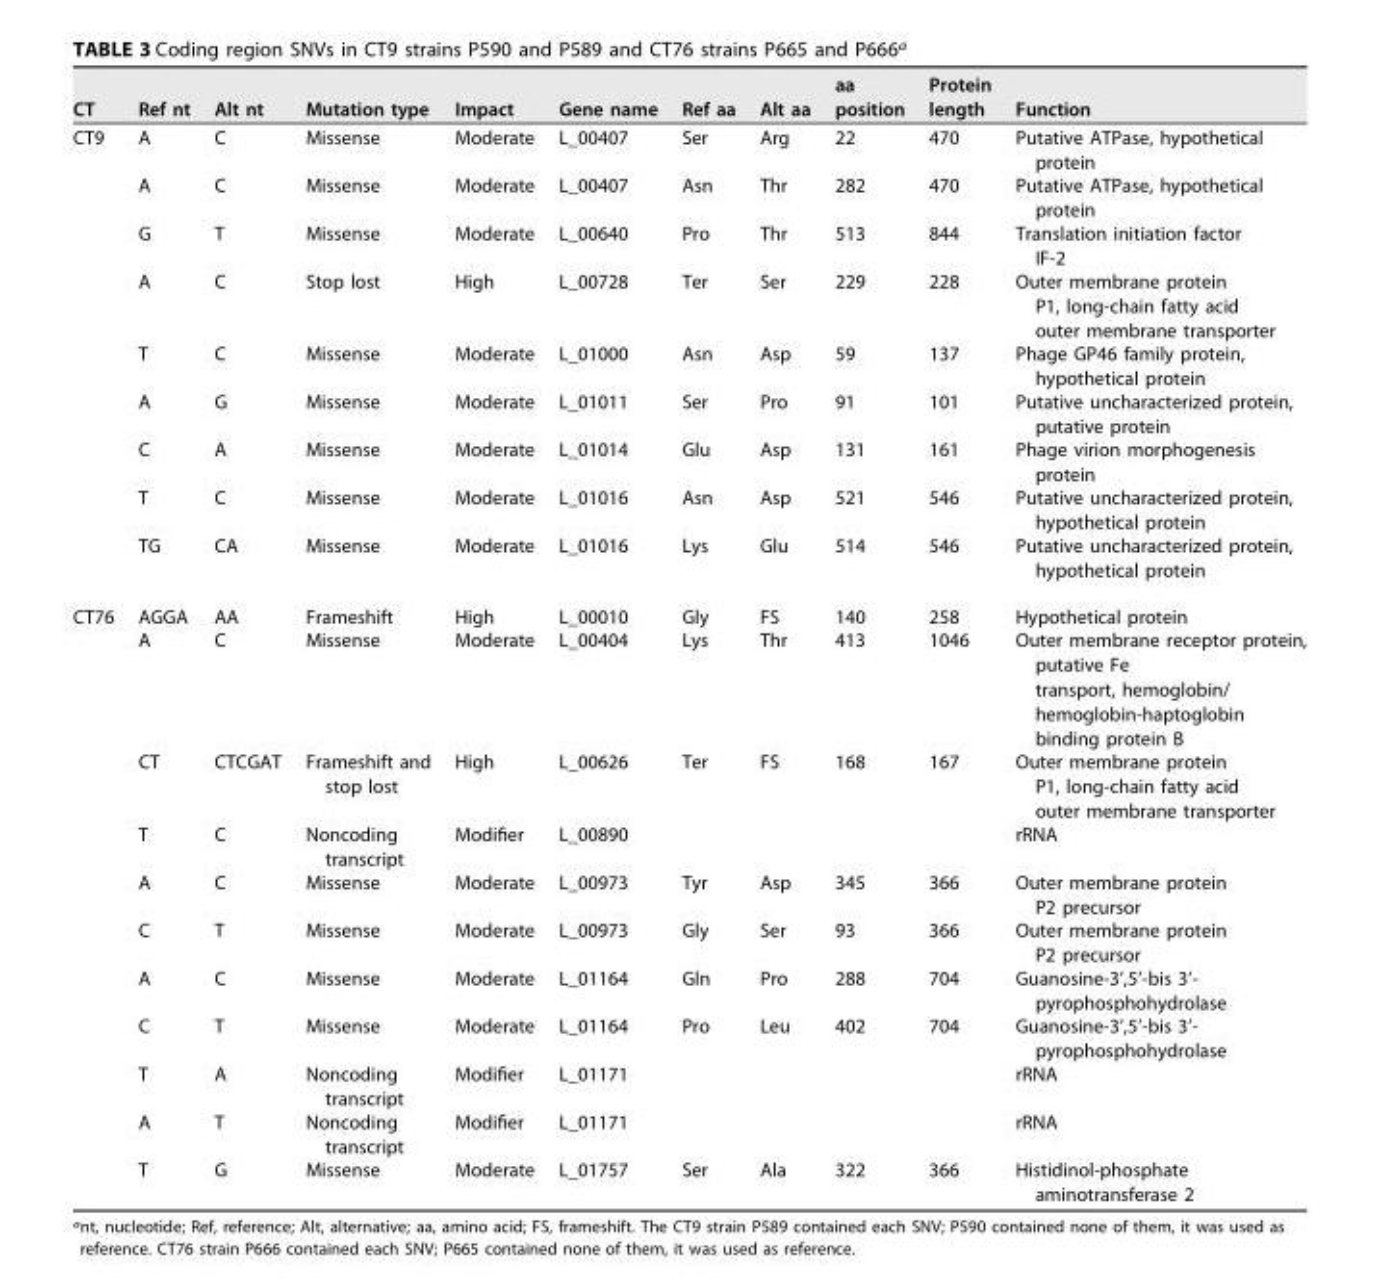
<table><thead><tr><td>CT</td><td>Ref nt</td><td>Alt nt</td><td>Mutation type</td><td>Impact</td><td>Gene name</td><td>Ref aa</td><td>Alt aa</td><td>aa position</td><td>Protein length</td><td>Function</td></tr></thead><tbody><tr><td rowspan="9">CT9</td><td>A</td><td>C</td><td>Missense</td><td>Moderate</td><td>L_00407</td><td>Ser</td><td>Arg</td><td>22</td><td>470</td><td>Putative ATPase, hypothetical protein</td></tr><tr><td>A</td><td>C</td><td>Missense</td><td>Moderate</td><td>L_00407</td><td>Asn</td><td>Thr</td><td>282</td><td>470</td><td>Putative ATPase, hypothetical protein</td></tr><tr><td>G</td><td>T</td><td>Missense</td><td>Moderate</td><td>L_00640</td><td>Pro</td><td>Thr</td><td>513</td><td>844</td><td>Translation initiation factor IF-2</td></tr><tr><td>A</td><td>C</td><td>Stop lost</td><td>High</td><td>L_00728</td><td>Ter</td><td>Ser</td><td>229</td><td>228</td><td>Outer membrane protein P1, long-chain fatty acid outer membrane transporter</td></tr><tr><td>T</td><td>C</td><td>Missense</td><td>Moderate</td><td>L_01000</td><td>Asn</td><td>Asp</td><td>59</td><td>137</td><td>Phage GP46 family protein, hypothetical protein</td></tr><tr><td>A</td><td>G</td><td>Missense</td><td>Moderate</td><td>L_01011</td><td>Ser</td><td>Pro</td><td>91</td><td>101</td><td>Putative uncharacterized protein, putative protein</td></tr><tr><td>C</td><td>A</td><td>Missense</td><td>Moderate</td><td>L_01014</td><td>Glu</td><td>Asp</td><td>131</td><td>161</td><td>Phage virion morphogenesis protein</td></tr><tr><td>T</td><td>C</td><td>Missense</td><td>Moderate</td><td>L_01016</td><td>Asn</td><td>Asp</td><td>521</td><td>546</td><td>Putative uncharacterized protein, hypothetical protein</td></tr><tr><td>TG</td><td>CA</td><td>Missense</td><td>Moderate</td><td>L_01016</td><td>Lys</td><td>Glu</td><td>514</td><td>546</td><td>Putative uncharacterized protein, hypothetical protein</td></tr><tr><td rowspan="11">CT76</td><td>AGGA</td><td>AA</td><td>Frameshift</td><td>High</td><td>L_00010</td><td>Gly</td><td>FS</td><td>140</td><td>258</td><td>Hypothetical protein</td></tr><tr><td>A</td><td>C</td><td>Missense</td><td>Moderate</td><td>L_00404</td><td>Lys</td><td>Thr</td><td>413</td><td>1046</td><td>Outer membrane receptor protein, putative Fe transport, hemoglobin/ hemoglobin-haptoglobin binding protein B</td></tr><tr><td>CT</td><td>CTCGAT</td><td>Frameshift and stop lost</td><td>High</td><td>L_00626</td><td>Ter</td><td>FS</td><td>168</td><td>167</td><td>Outer membrane protein P1, long-chain fatty acid outer membrane transporter</td></tr><tr><td>T</td><td>C</td><td>Noncoding transcript</td><td>Modifier</td><td>L_00890</td><td></td><td></td><td></td><td></td><td>rRNA</td></tr><tr><td>A</td><td>C</td><td>Missense</td><td>Moderate</td><td>L_00973</td><td>Tyr</td><td>Asp</td><td>345</td><td>366</td><td>Outer membrane protein P2 precursor</td></tr><tr><td>C</td><td>T</td><td>Missense</td><td>Moderate</td><td>L_00973</td><td>Gly</td><td>Ser</td><td>93</td><td>366</td><td>Outer membrane protein P2 precursor</td></tr><tr><td>A</td><td>C</td><td>Missense</td><td>Moderate</td><td>L_01164</td><td>Gln</td><td>Pro</td><td>288</td><td>704</td><td>Guanosine-3’,5’-bis 3’- pyrophosphohydrolase</td></tr><tr><td>C</td><td>T</td><td>Missense</td><td>Moderate</td><td>L_01164</td><td>Pro</td><td>Leu</td><td>402</td><td>704</td><td>Guanosine-3’,5’-bis 3’- pyrophosphohydrolase</td></tr><tr><td>T</td><td>A</td><td>Noncoding transcript</td><td>Modifier</td><td>L_01171</td><td></td><td></td><td></td><td></td><td>rRNA</td></tr><tr><td>A</td><td>T</td><td>Noncoding transcript</td><td>Modifier</td><td>L_01171</td><td></td><td></td><td></td><td></td><td>rRNA</td></tr><tr><td>T</td><td>G</td><td>Missense</td><td>Moderate</td><td>L_01757</td><td>Ser</td><td>Ala</td><td>322</td><td>366</td><td>Histidinol-phosphate aminotransferase 2</td></tr></tbody></table>